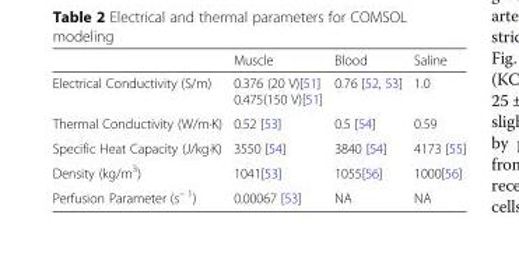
<table><thead><tr><td></td><td>Muscle</td><td>Blood</td><td>Saline</td></tr></thead><tbody><tr><td>Electrical Conductivity (S/m)</td><td>0.376 (20 V)[51] 0.475(150 V)[51]</td><td>0.76 [52, 53]</td><td>1.0</td></tr><tr><td>Thermal Conductivity (W/m∙K)</td><td>0.52 [53]</td><td>0.5 [54]</td><td>0.59</td></tr><tr><td>Specific Heat Capacity (J/kg∙K)</td><td>3550 [54]</td><td>3840 [54]</td><td>4173 [55]</td></tr><tr><td>Density (kg/m<sup>3</sup>)</td><td>1041[53]</td><td>1055[56]</td><td>1000[56]</td></tr><tr><td>Perfusion Parameter (s<sup>− 1</sup>)</td><td>0.00067 [53]</td><td>NA</td><td>NA</td></tr></tbody></table>